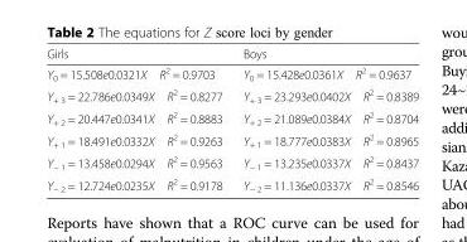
<table><thead><tr><td>Girls</td><td>Boys</td></tr></thead><tbody><tr><td>Y<sub>0</sub> = 15.508e0.0321X R<sup>2</sup> = 0.9703</td><td>Y<sub>0</sub> = 15.428e0.0361X R<sup>2</sup> = 0.9637</td></tr><tr><td>Y<sub>+ 3</sub> = 22.786e0.0349X R<sup>2</sup> = 0.8277</td><td>Y<sub>+ 3</sub> = 23.293e0.0402X R<sup>2</sup> = 0.8389</td></tr><tr><td>Y<sub>+ 2</sub> = 20.447e0.0341X R<sup>2</sup> = 0.8883</td><td>Y<sub>+ 2</sub> = 21.089e0.0384X R<sup>2</sup> = 0.8704</td></tr><tr><td>Y<sub>+ 1</sub> = 18.491e0.0332X R<sup>2</sup> = 0.9263</td><td>Y<sub>+ 1</sub> = 18.777e0.0383X R<sup>2</sup> = 0.8965</td></tr><tr><td>Y<sub>− 1</sub> = 13.458e0.0294X R<sup>2</sup> = 0.9563</td><td>Y<sub>− 1</sub> = 13.235e0.0337X R<sup>2</sup> = 0.8437</td></tr><tr><td>Y<sub>− 2</sub> = 12.724e0.0235X R<sup>2</sup> = 0.9178</td><td>Y<sub>− 2</sub> = 11.136e0.0337X R<sup>2</sup> = 0.8546</td></tr></tbody></table>